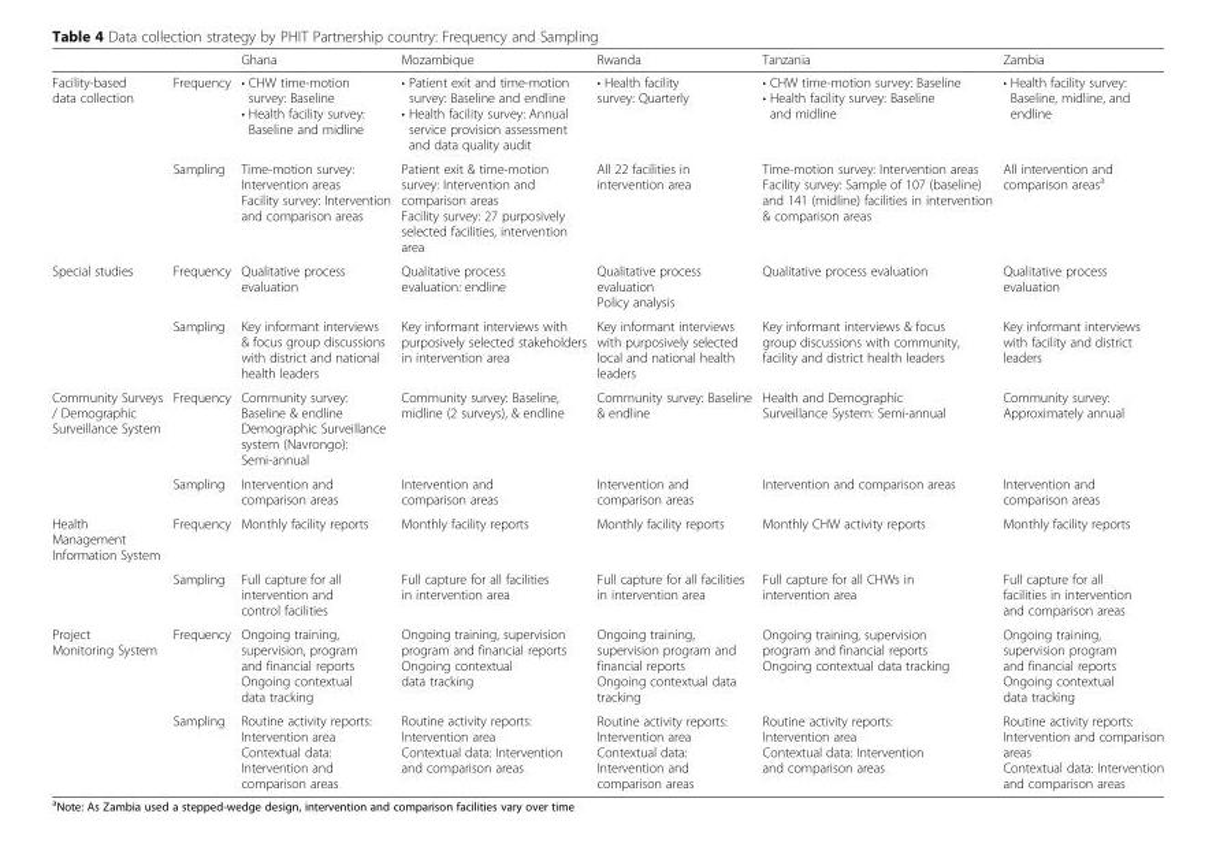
<table><thead><tr><td></td><td></td><td>Ghana</td><td>Mozambique</td><td>Rwanda</td><td>Tanzania</td><td>Zambia</td></tr></thead><tbody><tr><td rowspan="2">Facility-based data collection</td><td>Frequency</td><td>• CHW time-motion survey: Baseline • Health facility survey: Baseline and midline</td><td>• Patient exit and time-motion survey: Baseline and endline • Health facility survey: Annual service provision assessment and data quality audit</td><td>• Health facility survey: Quarterly</td><td>• CHW time-motion survey: Baseline • Health facility survey: Baseline and midline</td><td>• Health facility survey: Baseline, midline, and endline</td></tr><tr><td>Sampling</td><td>Time-motion survey: Intervention areas Facility survey: Intervention and comparison areas</td><td>Patient exit &amp; time-motion survey: Intervention and comparison areas Facility survey: 27 purposively selected facilities, intervention area</td><td>All 22 facilities in intervention area</td><td>Time-motion survey: Intervention areas Facility survey: Sample of 107 (baseline) and 141 (midline) facilities in intervention &amp; comparison areas</td><td>All intervention and comparison areas<sup>a</sup></td></tr><tr><td rowspan="2">Special studies</td><td>Frequency</td><td>Qualitative process evaluation</td><td>Qualitative process evaluation: endline</td><td>Qualitative process evaluation Policy analysis</td><td>Qualitative process evaluation</td><td>Qualitative process evaluation</td></tr><tr><td>Sampling</td><td>Key informant interviews &amp; focus group discussions with district and national health leaders</td><td>Key informant interviews with purposively selected stakeholders in intervention area</td><td>Key informant interviews with purposively selected local and national health leaders</td><td>Key informant interviews &amp; focus group discussions with community, facility and district health leaders</td><td>Key informant interviews with facility and district leaders</td></tr><tr><td rowspan="2">Community Surveys / Demographic Surveillance System</td><td>Frequency</td><td>Community survey: Baseline &amp; endline Demographic Surveillance system (Navrongo): Semi-annual</td><td>Community survey: Baseline, midline (2 surveys), &amp; endline</td><td>Community survey: Baseline &amp; endline</td><td>Health and Demographic Surveillance System: Semi-annual</td><td>Community survey: Approximately annual</td></tr><tr><td>Sampling</td><td>Intervention and comparison areas</td><td>Intervention and comparison areas</td><td>Intervention and comparison areas</td><td>Intervention and comparison areas</td><td>Intervention and comparison areas</td></tr><tr><td rowspan="2">Health Management Information System</td><td>Frequency</td><td>Monthly facility reports</td><td>Monthly facility reports</td><td>Monthly facility reports</td><td>Monthly CHW activity reports</td><td>Monthly facility reports</td></tr><tr><td>Sampling</td><td>Full capture for all intervention and control facilities</td><td>Full capture for all facilities in intervention area</td><td>Full capture for all facilities in intervention area</td><td>Full capture for all CHWs in intervention area</td><td>Full capture for all facilities in intervention and comparison areas</td></tr><tr><td rowspan="2">Project Monitoring System</td><td>Frequency</td><td>Ongoing training, supervision, program and financial reports Ongoing contextual data tracking</td><td>Ongoing training, supervision program and financial reports Ongoing contextual data tracking</td><td>Ongoing training, supervision program and financial reports Ongoing contextual data tracking</td><td>Ongoing training, supervision program and financial reports Ongoing contextual data tracking</td><td>Ongoing training, supervision program and financial reports Ongoing contextual data tracking</td></tr><tr><td>Sampling</td><td>Routine activity reports: Intervention area Contextual data: Intervention and comparison areas</td><td>Routine activity reports: Intervention area Contextual data: Intervention and comparison areas</td><td>Routine activity reports: Intervention area Contextual data: Intervention and comparison areas</td><td>Routine activity reports: Intervention area Contextual data: Intervention and comparison areas</td><td>Routine activity reports: Intervention and comparison areas Contextual data: Intervention and comparison areas</td></tr></tbody></table>